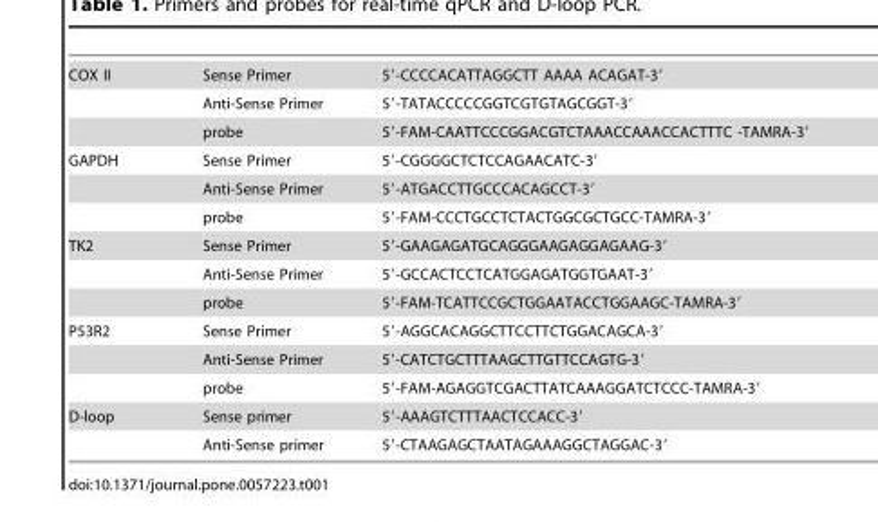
<table><tbody><tr><td rowspan="3">COX II</td><td>Sense Primer</td><td>5′-CCCCACATTAGGCTT AAAA ACAGAT-3′</td></tr><tr><td>Anti-Sense Primer</td><td>5′-TATACCCCCGGTCGTGTAGCGGT-3′</td></tr><tr><td>probe</td><td>5′-FAM-CAATTCCCGGACGTCTAAACCAAACCACTTTC -TAMRA-3′</td></tr><tr><td rowspan="3">GAPDH</td><td>Sense Primer</td><td>5′-CGGGGCTCTCCAGAACATC-3′</td></tr><tr><td>Anti-Sense Primer</td><td>5′-ATGACCTTGCCCACAGCCT-3′</td></tr><tr><td>probe</td><td>5′-FAM-CCCTGCCTCTACTGGCGCTGCC-TAMRA-3′</td></tr><tr><td rowspan="3">TK2</td><td>Sense Primer</td><td>5′-GAAGAGATGCAGGGAAGAGGAGAAG-3′</td></tr><tr><td>Anti-Sense Primer</td><td>5′-GCCACTCCTCATGGAGATGGTGAAT-3′</td></tr><tr><td>probe</td><td>5′-FAM-TCATTCCGCTGGAATACCTGGAAGC-TAMRA-3′</td></tr><tr><td rowspan="3">P53R2</td><td>Sense Primer</td><td>5′-AGGCACAGGCTTCCTTCTGGACAGCA-3′</td></tr><tr><td>Anti-Sense Primer</td><td>5′-CATCTGCTTTAAGCTTGTTCCAGTG-3′</td></tr><tr><td>probe</td><td>5′-FAM-AGAGGTCGACTTATCAAAGGATCTCCC-TAMRA-3′</td></tr><tr><td rowspan="2">D-loop</td><td>Sense primer</td><td>5′-AAAGTCTTTAACTCCACC-3′</td></tr><tr><td>Anti-Sense primer</td><td>5′-CTAAGAGCTAATAGAAAGGCTAGGAC-3′</td></tr></tbody></table>